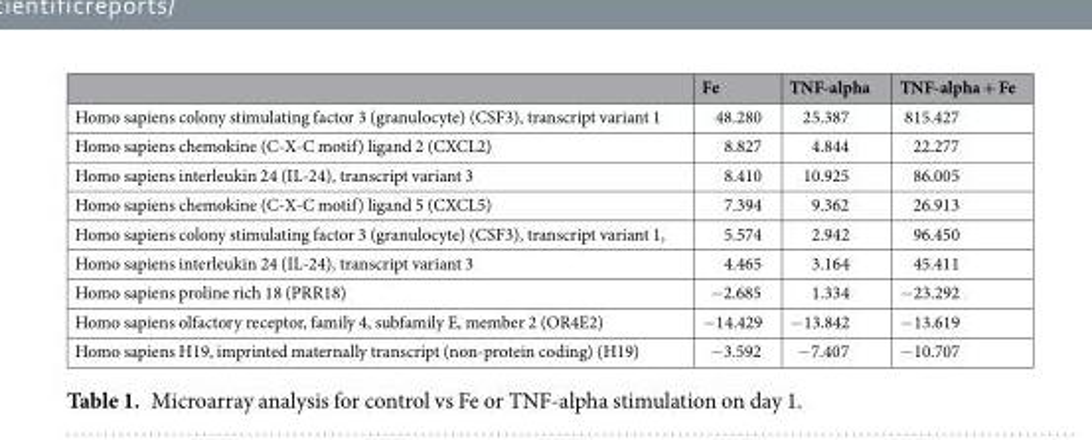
<table><thead><tr><td></td><td>Fe</td><td>TNF-alpha</td><td>TNF-alpha + Fe</td></tr></thead><tbody><tr><td>Homo sapiens colony stimulating factor 3 (granulocyte) (CSF3), transcript variant 1</td><td>48.280</td><td>25.387</td><td>815.427</td></tr><tr><td>Homo sapiens chemokine (C-X-C motif) ligand 2 (CXCL2)</td><td>8.827</td><td>4.844</td><td>22.277</td></tr><tr><td>Homo sapiens interleukin 24 (IL-24), transcript variant 3</td><td>8.410</td><td>10.925</td><td>86.005</td></tr><tr><td>Homo sapiens chemokine (C-X-C motif) ligand 5 (CXCL5)</td><td>7.394</td><td>9.362</td><td>26.913</td></tr><tr><td>Homo sapiens colony stimulating factor 3 (granulocyte) (CSF3), transcript variant 1,</td><td>5.574</td><td>2.942</td><td>96.450</td></tr><tr><td>Homo sapiens interleukin 24 (IL-24), transcript variant 3</td><td>4.465</td><td>3.164</td><td>45.411</td></tr><tr><td>Homo sapiens proline rich 18 (PRR18)</td><td>−2.685</td><td>1.334</td><td>−23.292</td></tr><tr><td>Homo sapiens olfactory receptor, family 4, subfamily E, member 2 (OR4E2)</td><td>−14.429</td><td>−13.842</td><td>−13.619</td></tr><tr><td>Homo sapiens H19, imprinted maternally transcript (non-protein coding) (H19)</td><td>−3.592</td><td>−7.407</td><td>−10.707</td></tr></tbody></table>